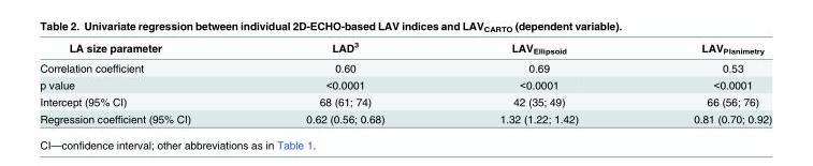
<table><thead><tr><td>LA size parameter</td><td>LAD<sup>3</sup></td><td>LAV<sub>Ellipsoid</sub></td><td>LAV<sub>Planimetry</sub></td></tr></thead><tbody><tr><td>Correlation coefficient</td><td>0.60</td><td>0.69</td><td>0.53</td></tr><tr><td>p value</td><td>&lt;0.0001</td><td>&lt;0.0001</td><td>&lt;0.0001</td></tr><tr><td>Intercept (95% CI)</td><td>68 (61; 74)</td><td>42 (35; 49)</td><td>66 (56; 76)</td></tr><tr><td>Regression coefficient (95% CI)</td><td>0.62 (0.56; 0.68)</td><td>1.32 (1.22; 1.42)</td><td>0.81 (0.70; 0.92)</td></tr></tbody></table>